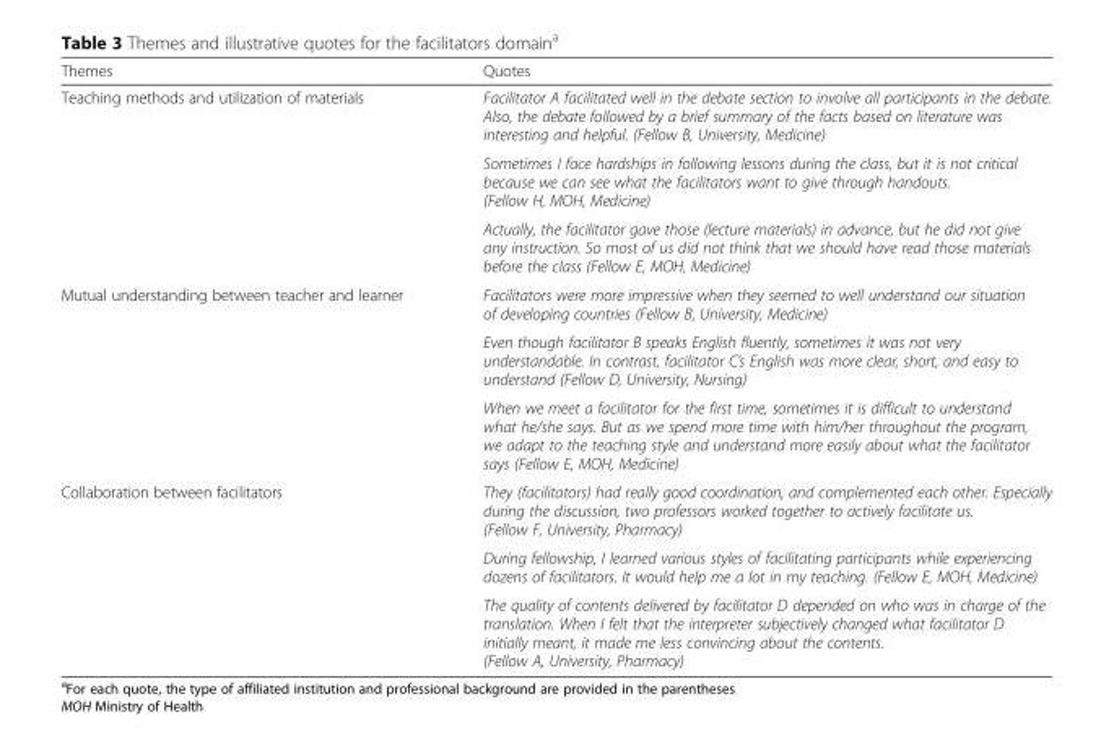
<table><thead><tr><td>Themes</td><td>Quotes</td></tr></thead><tbody><tr><td rowspan="3">Teaching methods and utilization of materials</td><td>Facilitator A facilitated well in the debate section to involve all participants in the debate. Also, the debate followed by a brief summary of the facts based on literature was interesting and helpful. (Fellow B, University, Medicine)</td></tr><tr><td>Sometimes I face hardships in following lessons during the class, but it is not critical because we can see what the facilitators want to give through handouts. (Fellow H, MOH, Medicine)</td></tr><tr><td>Actually, the facilitator gave those (lecture materials) in advance, but he did not give any instruction. So most of us did not think that we should have read those materials before the class (Fellow E, MOH, Medicine)</td></tr><tr><td rowspan="3">Mutual understanding between teacher and learner</td><td>Facilitators were more impressive when they seemed to well understand our situation of developing countries (Fellow B, University, Medicine)</td></tr><tr><td>Even though facilitator B speaks English fluently, sometimes it was not very understandable. In contrast, facilitator C’s English was more clear, short, and easy to understand (Fellow D, University, Nursing)</td></tr><tr><td>When we meet a facilitator for the first time, sometimes it is difficult to understand what he/she says. But as we spend more time with him/her throughout the program, we adapt to the teaching style and understand more easily about what the facilitator says (Fellow E, MOH, Medicine)</td></tr><tr><td rowspan="3">Collaboration between facilitators</td><td>They (facilitators) had really good coordination, and complemented each other. Especially during the discussion, two professors worked together to actively facilitate us. (Fellow F, University, Pharmacy)</td></tr><tr><td>During fellowship, I learned various styles of facilitating participants while experiencing dozens of facilitators. It would help me a lot in my teaching. (Fellow E, MOH, Medicine)</td></tr><tr><td>The quality of contents delivered by facilitator D depended on who was in charge of the translation. When I felt that the interpreter subjectively changed what facilitator D initially meant, it made me less convincing about the contents. (Fellow A, University, Pharmacy)</td></tr></tbody></table>